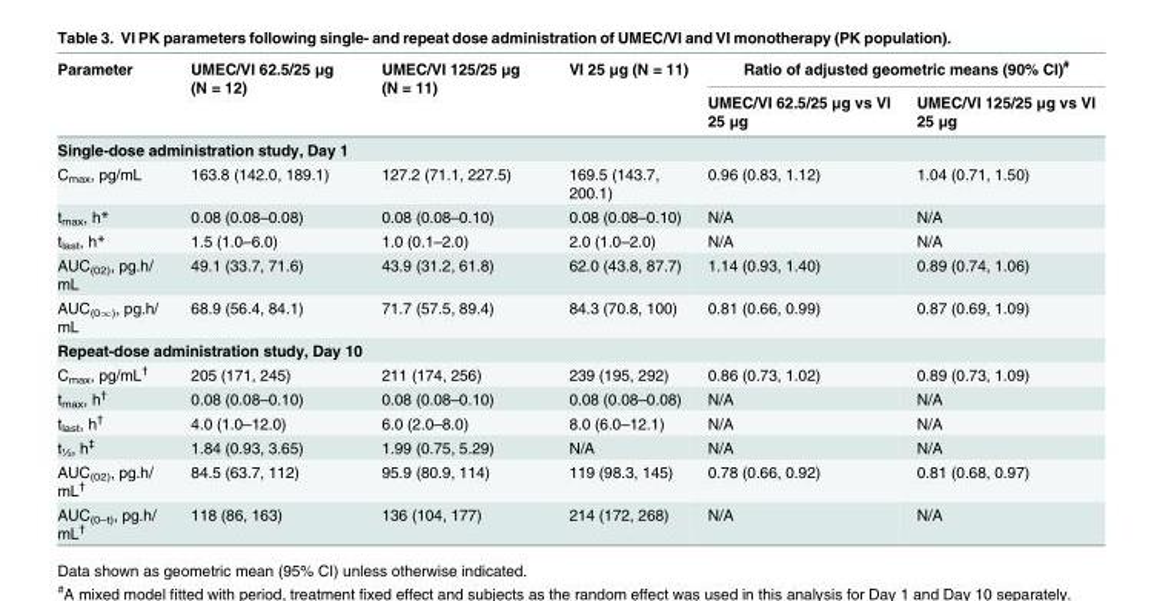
<table><thead><tr><td rowspan="2">Parameter</td><td rowspan="2">UMEC/VI 62.5/25 μg (N = 12)</td><td rowspan="2">UMEC/VI 125/25 μg (N = 11)</td><td rowspan="2">VI 25 μg (N = 11)</td><td colspan="2">Ratio of adjusted geometric means (90% CI)<sup>#</sup></td></tr><tr><td>UMEC/VI 62.5/25 μg vs VI 25 μg</td><td>UMEC/VI 125/25 μg vs VI 25 μg</td></tr></thead><tbody><tr><td colspan="6">Single-dose administration study, Day 1</td></tr><tr><td>C<sub>max</sub>, pg/mL</td><td>163.8 (142.0, 189.1)</td><td>127.2 (71.1, 227.5)</td><td>169.5 (143.7, 200.1)</td><td>0.96 (0.83, 1.12)</td><td>1.04 (0.71, 1.50)</td></tr><tr><td>t<sub>max</sub>, h*</td><td>0.08 (0.08–0.08)</td><td>0.08 (0.08–0.10)</td><td>0.08 (0.08–0.10)</td><td>N/A</td><td>N/A</td></tr><tr><td>t<sub>last</sub>, h*</td><td>1.5 (1.0–6.0)</td><td>1.0 (0.1–2.0)</td><td>2.0 (1.0–2.0)</td><td>N/A</td><td>N/A</td></tr><tr><td>AUC<sub>(02)</sub>, pg.h/ mL</td><td>49.1 (33.7, 71.6)</td><td>43.9 (31.2, 61.8)</td><td>62.0 (43.8, 87.7)</td><td>1.14 (0.93, 1.40)</td><td>0.89 (0.74, 1.06)</td></tr><tr><td>AUC<sub>(0∞)</sub>, pg.h/ mL</td><td>68.9 (56.4, 84.1)</td><td>71.7 (57.5, 89.4)</td><td>84.3 (70.8, 100)</td><td>0.81 (0.66, 0.99)</td><td>0.87 (0.69, 1.09)</td></tr><tr><td colspan="6">Repeat-dose administration study, Day 10</td></tr><tr><td>C<sub>max</sub>, pg/mL<sup>†</sup></td><td>205 (171, 245)</td><td>211 (174, 256)</td><td>239 (195, 292)</td><td>0.86 (0.73, 1.02)</td><td>0.89 (0.73, 1.09)</td></tr><tr><td>t<sub>max</sub>, h<sup>†</sup></td><td>0.08 (0.08–0.10)</td><td>0.08 (0.08–0.10)</td><td>0.08 (0.08–0.08)</td><td>N/A</td><td>N/A</td></tr><tr><td>t<sub>last</sub>, h<sup>†</sup></td><td>4.0 (1.0–12.0)</td><td>6.0 (2.0–8.0)</td><td>8.0 (6.0–12.1)</td><td>N/A</td><td>N/A</td></tr><tr><td>t<sub>½</sub>, h<sup>‡</sup></td><td>1.84 (0.93, 3.65)</td><td>1.99 (0.75, 5.29)</td><td>N/A</td><td>N/A</td><td>N/A</td></tr><tr><td>AUC<sub>(02)</sub>, pg.h/ mL<sup>†</sup></td><td>84.5 (63.7, 112)</td><td>95.9 (80.9, 114)</td><td>119 (98.3, 145)</td><td>0.78 (0.66, 0.92)</td><td>0.81 (0.68, 0.97)</td></tr><tr><td>AUC<sub>(0–t)</sub>, pg.h/ mL<sup>†</sup></td><td>118 (86, 163)</td><td>136 (104, 177)</td><td>214 (172, 268)</td><td>N/A</td><td>N/A</td></tr></tbody></table>